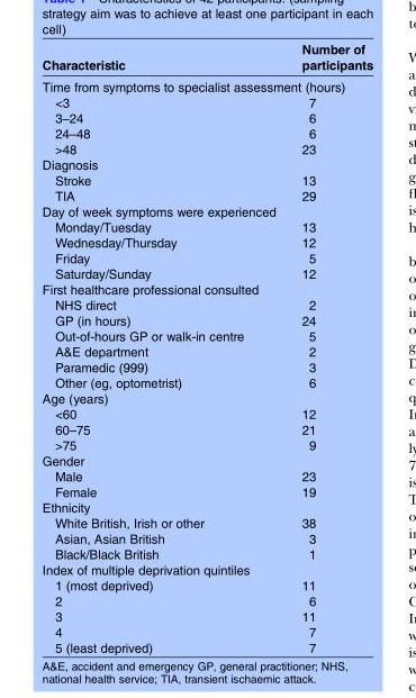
<table><thead><tr><td>Characteristic</td><td>Number of participants</td></tr></thead><tbody><tr><td colspan="2">Time from symptoms to specialist assessment (hours)</td></tr><tr><td>&lt;3</td><td>7</td></tr><tr><td>3–24</td><td>6</td></tr><tr><td>24–48</td><td>6</td></tr><tr><td>&gt;48</td><td>23</td></tr><tr><td colspan="2">Diagnosis</td></tr><tr><td>Stroke</td><td>13</td></tr><tr><td>TIA</td><td>29</td></tr><tr><td colspan="2">Day of week symptoms were experienced</td></tr><tr><td>Monday/Tuesday</td><td>13</td></tr><tr><td>Wednesday/Thursday</td><td>12</td></tr><tr><td>Friday</td><td>5</td></tr><tr><td>Saturday/Sunday</td><td>12</td></tr><tr><td colspan="2">First healthcare professional consulted</td></tr><tr><td>NHS direct</td><td>2</td></tr><tr><td>GP (in hours)</td><td>24</td></tr><tr><td>Out-of-hours GP or walk-in centre</td><td>5</td></tr><tr><td>A&amp;E department</td><td>2</td></tr><tr><td>Paramedic (999)</td><td>3</td></tr><tr><td>Other (eg, optometrist)</td><td>6</td></tr><tr><td colspan="2">Age (years)</td></tr><tr><td>&lt;60</td><td>12</td></tr><tr><td>60–75</td><td>21</td></tr><tr><td>&gt;75</td><td>9</td></tr><tr><td colspan="2">Gender</td></tr><tr><td>Male</td><td>23</td></tr><tr><td>Female</td><td>19</td></tr><tr><td colspan="2">Ethnicity</td></tr><tr><td>White British, Irish or other</td><td>38</td></tr><tr><td>Asian, Asian British</td><td>3</td></tr><tr><td>Black/Black British</td><td>1</td></tr><tr><td colspan="2">Index of multiple deprivation quintiles</td></tr><tr><td>1 (most deprived)</td><td>11</td></tr><tr><td>2</td><td>6</td></tr><tr><td>3</td><td>11</td></tr><tr><td>4</td><td>7</td></tr><tr><td>5 (least deprived)</td><td>7</td></tr></tbody></table>